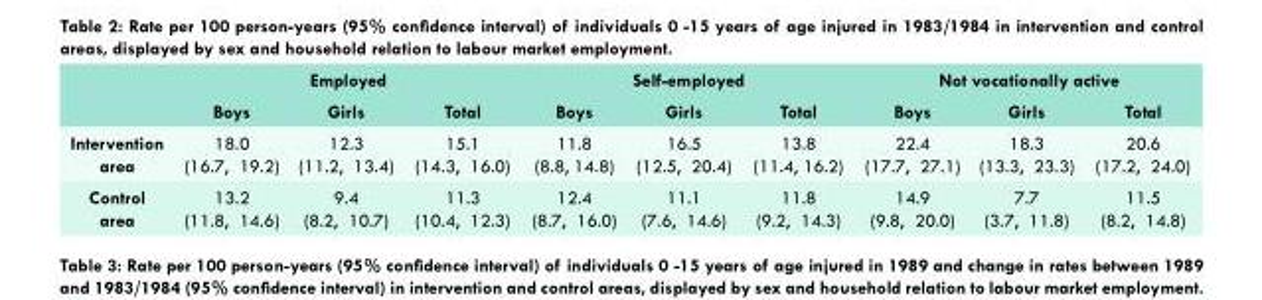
<table><thead><tr><td rowspan="2"></td><td colspan="3">Employed</td><td colspan="3">Self-employed</td><td colspan="3">Not vocationally active</td></tr><tr><td>Boys</td><td>Girls</td><td>Total</td><td>Boys</td><td>Girls</td><td>Total</td><td>Boys</td><td>Girls</td><td>Total</td></tr></thead><tbody><tr><td>Intervention area</td><td>18.0 (16.7, 19.2)</td><td>12.3 (11.2, 13.4)</td><td>15.1 (14.3, 16.0)</td><td>11.8 (8.8, 14.8)</td><td>16.5 (12.5, 20.4)</td><td>13.8 (11.4, 16.2)</td><td>22.4 (17.7, 27.1)</td><td>18.3 (13.3, 23.3)</td><td>20.6 (17.2, 24.0)</td></tr><tr><td>Control area</td><td>13.2 (11.8, 14.6)</td><td>9.4 (8.2, 10.7)</td><td>11.3 (10.4, 12.3)</td><td>12.4 (8.7, 16.0)</td><td>11.1 (7.6, 14.6)</td><td>11.8 (9.2, 14.3)</td><td>14.9 (9.8, 20.0)</td><td>7.7 (3.7, 11.8)</td><td>11.5 (8.2, 14.8)</td></tr></tbody></table>